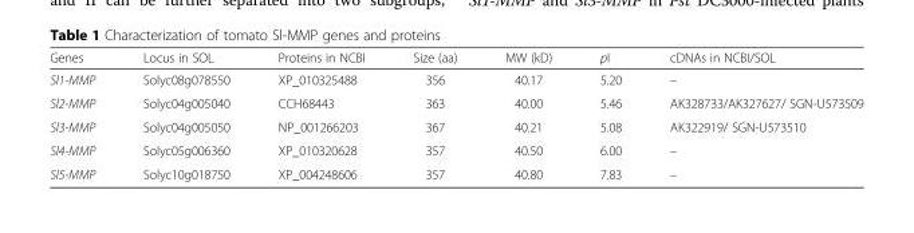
<table><thead><tr><td>Genes</td><td>Locus in SOL</td><td>Proteins in NCBI</td><td>Size (aa)</td><td>MW (kD)</td><td>pI</td><td>cDNAs in NCBI/SOL</td></tr></thead><tbody><tr><td>Sl1-MMP</td><td>Solyc08g078550</td><td>XP_010325488</td><td>356</td><td>40.17</td><td>5.20</td><td>–</td></tr><tr><td>Sl2-MMP</td><td>Solyc04g005040</td><td>CCH68443</td><td>363</td><td>40.00</td><td>5.46</td><td>AK328733/AK327627/ SGN-U573509</td></tr><tr><td>Sl3-MMP</td><td>Solyc04g005050</td><td>NP_001266203</td><td>367</td><td>40.21</td><td>5.08</td><td>AK322919/ SGN-U573510</td></tr><tr><td>Sl4-MMP</td><td>Solyc05g006360</td><td>XP_010320628</td><td>357</td><td>40.50</td><td>6.00</td><td>–</td></tr><tr><td>Sl5-MMP</td><td>Solyc10g018750</td><td>XP_004248606</td><td>357</td><td>40.80</td><td>7.83</td><td>–</td></tr></tbody></table>